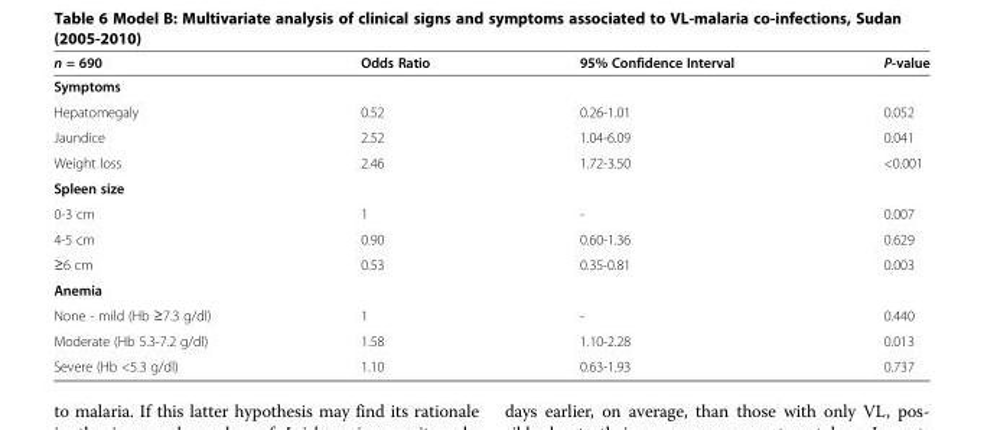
<table><thead><tr><td>n = 690</td><td>Odds Ratio</td><td>95% Confidence Interval</td><td>P-value</td></tr></thead><tbody><tr><td colspan="4">Symptoms</td></tr><tr><td>Hepatomegaly</td><td>0.52</td><td>0.26-1.01</td><td>0.052</td></tr><tr><td>Jaundice</td><td>2.52</td><td>1.04-6.09</td><td>0.041</td></tr><tr><td>Weight loss</td><td>2.46</td><td>1.72-3.50</td><td>&lt;0.001</td></tr><tr><td colspan="4">Spleen size</td></tr><tr><td>0-3 cm</td><td>1</td><td>-</td><td>0.007</td></tr><tr><td>4-5 cm</td><td>0.90</td><td>0.60-1.36</td><td>0.629</td></tr><tr><td>≥6 cm</td><td>0.53</td><td>0.35-0.81</td><td>0.003</td></tr><tr><td colspan="4">Anemia</td></tr><tr><td>None - mild (Hb ≥7.3 g/dl)</td><td>1</td><td>-</td><td>0.440</td></tr><tr><td>Moderate (Hb 5.3-7.2 g/dl)</td><td>1.58</td><td>1.10-2.28</td><td>0.013</td></tr><tr><td>Severe (Hb &lt;5.3 g/dl)</td><td>1.10</td><td>0.63-1.93</td><td>0.737</td></tr></tbody></table>